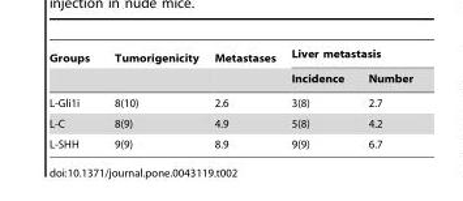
<table><thead><tr><td rowspan="2">Groups</td><td rowspan="2">Tumorigenicity</td><td rowspan="2">Metastases</td><td colspan="2">Liver metastasis</td></tr><tr><td>Incidence</td><td>Number</td></tr></thead><tbody><tr><td>L-Gli1i</td><td>8(10)</td><td>2.6</td><td>3(8)</td><td>2.7</td></tr><tr><td>L-C</td><td>8(9)</td><td>4.9</td><td>5(8)</td><td>4.2</td></tr><tr><td>L-SHH</td><td>9(9)</td><td>8.9</td><td>9(9)</td><td>6.7</td></tr></tbody></table>